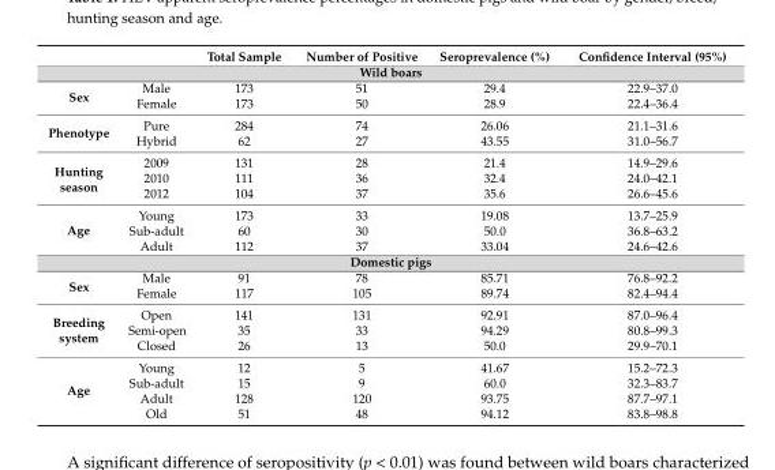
<table><thead><tr><td></td><td></td><td>Total Sample</td><td>Number of Positive</td><td>Seroprevalence (%)</td><td>Confidence Interval (95%)</td></tr></thead><tbody><tr><td colspan="6">Wild boars</td></tr><tr><td rowspan="2">Sex</td><td>Male</td><td>173</td><td>51</td><td>29.4</td><td>22.9–37.0</td></tr><tr><td>Female</td><td>173</td><td>50</td><td>28.9</td><td>22.4–36.4</td></tr><tr><td rowspan="2">Phenotype</td><td>Pure</td><td>284</td><td>74</td><td>26.06</td><td>21.1–31.6</td></tr><tr><td>Hybrid</td><td>62</td><td>27</td><td>43.55</td><td>31.0–56.7</td></tr><tr><td rowspan="3">Hunting season</td><td>2009</td><td>131</td><td>28</td><td>21.4</td><td>14.9–29.6</td></tr><tr><td>2010</td><td>111</td><td>36</td><td>32.4</td><td>24.0–42.1</td></tr><tr><td>2012</td><td>104</td><td>37</td><td>35.6</td><td>26.6–45.6</td></tr><tr><td rowspan="3">Age</td><td>Young</td><td>173</td><td>33</td><td>19.08</td><td>13.7–25.9</td></tr><tr><td>Sub-adult</td><td>60</td><td>30</td><td>50.0</td><td>36.8–63.2</td></tr><tr><td>Adult</td><td>112</td><td>37</td><td>33.04</td><td>24.6–42.6</td></tr><tr><td colspan="6">Domestic pigs</td></tr><tr><td rowspan="2">Sex</td><td>Male</td><td>91</td><td>78</td><td>85.71</td><td>76.8–92.2</td></tr><tr><td>Female</td><td>117</td><td>105</td><td>89.74</td><td>82.4–94.4</td></tr><tr><td rowspan="3">Breeding system</td><td>Open</td><td>141</td><td>131</td><td>92.91</td><td>87.0–96.4</td></tr><tr><td>Semi-open</td><td>35</td><td>33</td><td>94.29</td><td>80.8–99.3</td></tr><tr><td>Closed</td><td>26</td><td>13</td><td>50.0</td><td>29.9–70.1</td></tr><tr><td rowspan="4">Age</td><td>Young</td><td>12</td><td>5</td><td>41.67</td><td>15.2–72.3</td></tr><tr><td>Sub-adult</td><td>15</td><td>9</td><td>60.0</td><td>32.3–83.7</td></tr><tr><td>Adult</td><td>128</td><td>120</td><td>93.75</td><td>87.7–97.1</td></tr><tr><td>Old</td><td>51</td><td>48</td><td>94.12</td><td>83.8–98.8</td></tr></tbody></table>